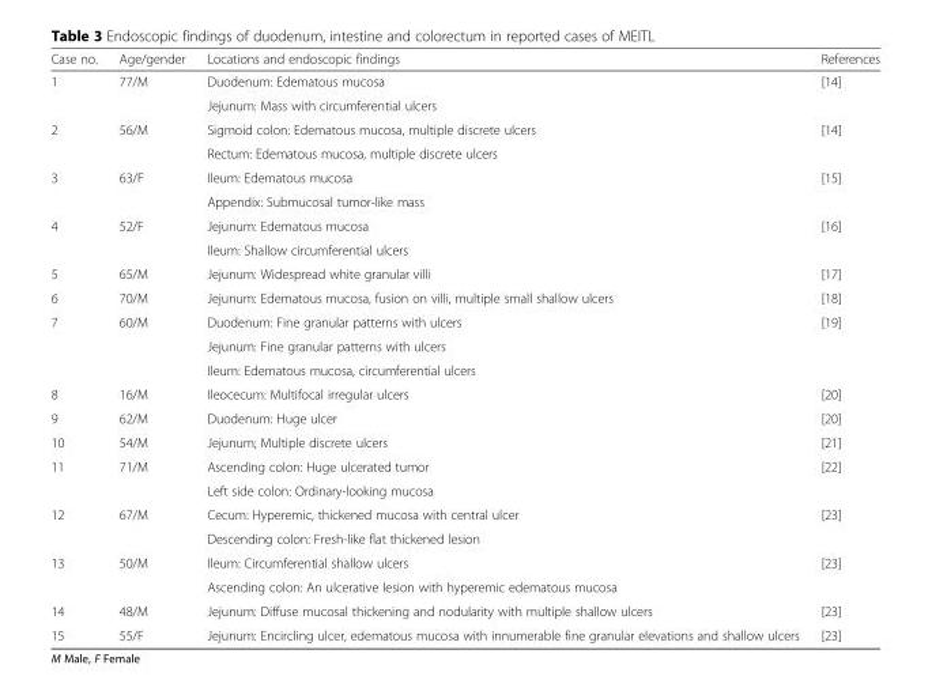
<table><thead><tr><td>Case no.</td><td>Age/gender</td><td>Locations and endoscopic findings</td><td>References</td></tr></thead><tbody><tr><td rowspan="2">1</td><td>77/M</td><td>Duodenum: Edematous mucosa</td><td>[14]</td></tr><tr><td></td><td>Jejunum: Mass with circumferential ulcers</td><td></td></tr><tr><td rowspan="2">2</td><td>56/M</td><td>Sigmoid colon: Edematous mucosa, multiple discrete ulcers</td><td>[14]</td></tr><tr><td></td><td>Rectum: Edematous mucosa, multiple discrete ulcers</td><td></td></tr><tr><td rowspan="2">3</td><td>63/F</td><td>Ileum: Edematous mucosa</td><td>[15]</td></tr><tr><td></td><td>Appendix: Submucosal tumor-like mass</td><td></td></tr><tr><td rowspan="2">4</td><td>52/F</td><td>Jejunum: Edematous mucosa</td><td>[16]</td></tr><tr><td></td><td>Ileum: Shallow circumferential ulcers</td><td></td></tr><tr><td>5</td><td>65/M</td><td>Jejunum: Widespread white granular villi</td><td>[17]</td></tr><tr><td>6</td><td>70/M</td><td>Jejunum: Edematous mucosa, fusion on villi, multiple small shallow ulcers</td><td>[18]</td></tr><tr><td rowspan="3">7</td><td>60/M</td><td>Duodenum: Fine granular patterns with ulcers</td><td>[19]</td></tr><tr><td></td><td>Jejunum: Fine granular patterns with ulcers</td><td></td></tr><tr><td></td><td>Ileum: Edematous mucosa, circumferential ulcers</td><td></td></tr><tr><td>8</td><td>16/M</td><td>Ileocecum: Multifocal irregular ulcers</td><td>[20]</td></tr><tr><td>9</td><td>62/M</td><td>Duodenum: Huge ulcer</td><td>[20]</td></tr><tr><td>10</td><td>54/M</td><td>Jejunum; Multiple discrete ulcers</td><td>[21]</td></tr><tr><td rowspan="2">11</td><td>71/M</td><td>Ascending colon: Huge ulcerated tumor</td><td>[22]</td></tr><tr><td></td><td>Left side colon: Ordinary-looking mucosa</td><td></td></tr><tr><td rowspan="2">12</td><td>67/M</td><td>Cecum: Hyperemic, thickened mucosa with central ulcer</td><td>[23]</td></tr><tr><td></td><td>Descending colon: Fresh-like flat thickened lesion</td><td></td></tr><tr><td rowspan="2">13</td><td>50/M</td><td>Ileum: Circumferential shallow ulcers</td><td>[23]</td></tr><tr><td></td><td>Ascending colon: An ulcerative lesion with hyperemic edematous mucosa</td><td></td></tr><tr><td>14</td><td>48/M</td><td>Jejunum: Diffuse mucosal thickening and nodularity with multiple shallow ulcers</td><td>[23]</td></tr><tr><td>15</td><td>55/F</td><td>Jejunum: Encircling ulcer, edematous mucosa with innumerable fine granular elevations and shallow ulcers</td><td>[23]</td></tr></tbody></table>